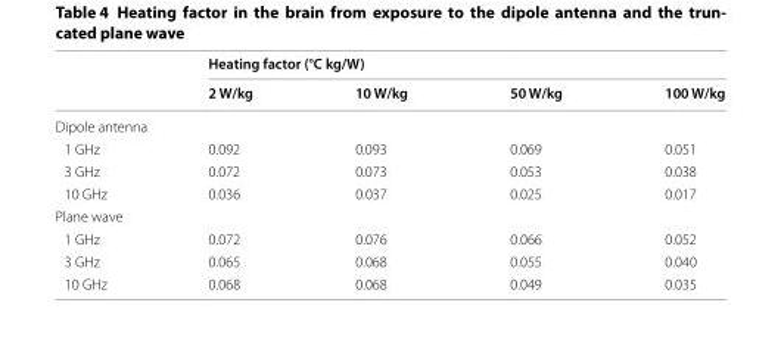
<table><thead><tr><td rowspan="2"></td><td colspan="4">Heating factor (°C kg/W)</td></tr><tr><td>2 W/kg</td><td>10 W/kg</td><td>50 W/kg</td><td>100 W/kg</td></tr></thead><tbody><tr><td colspan="5">Dipole antenna</td></tr><tr><td>1 GHz</td><td>0.092</td><td>0.093</td><td>0.069</td><td>0.051</td></tr><tr><td>3 GHz</td><td>0.072</td><td>0.073</td><td>0.053</td><td>0.038</td></tr><tr><td>10 GHz</td><td>0.036</td><td>0.037</td><td>0.025</td><td>0.017</td></tr><tr><td colspan="5">Plane wave</td></tr><tr><td>1 GHz</td><td>0.072</td><td>0.076</td><td>0.066</td><td>0.052</td></tr><tr><td>3 GHz</td><td>0.065</td><td>0.068</td><td>0.055</td><td>0.040</td></tr><tr><td>10 GHz</td><td>0.068</td><td>0.068</td><td>0.049</td><td>0.035</td></tr></tbody></table>